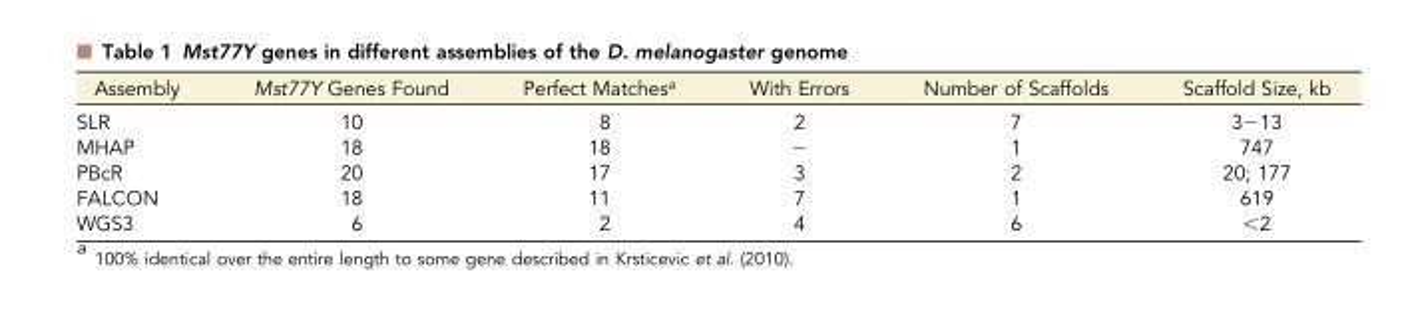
<table><thead><tr><td>Assembly</td><td>Mst77Y Genes Found</td><td>Perfect Matches<sup>a</sup></td><td>With Errors</td><td>Number of Scaffolds</td><td>Scaffold Size, kb</td></tr></thead><tbody><tr><td>SLR</td><td>10</td><td>8</td><td>2</td><td>7</td><td>3−13</td></tr><tr><td>MHAP</td><td>18</td><td>18</td><td>−</td><td>1</td><td>747</td></tr><tr><td>PBcR</td><td>20</td><td>17</td><td>3</td><td>2</td><td>20; 177</td></tr><tr><td>FALCON</td><td>18</td><td>11</td><td>7</td><td>1</td><td>619</td></tr><tr><td>WGS3</td><td>6</td><td>2</td><td>4</td><td>6</td><td>&lt;2</td></tr></tbody></table>